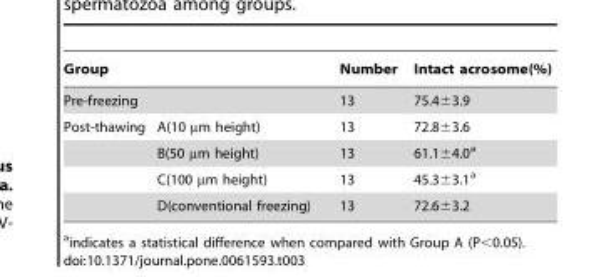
<table><thead><tr><td rowspan="2" colspan="2">Group Pre-freezing</td><td rowspan="3">Number 13 13</td><td rowspan="3">Intact acrosome(%) 75.4±3.9 72.8±3.6</td></tr><tr></tr><tr><td>Post-thawing</td><td>A(10 µm height)</td></tr></thead><tbody><tr><td></td><td>B(50 µm height)</td><td>13</td><td>61.1±4.0<sup>a</sup></td></tr><tr><td></td><td>C(100 µm height)</td><td>13</td><td>45.3±3.1<sup>a</sup></td></tr><tr><td></td><td>D(conventional freezing)</td><td>13</td><td>72.6±3.2</td></tr></tbody></table>